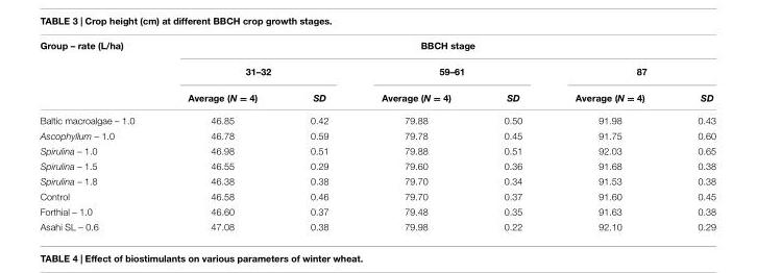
<table><thead><tr><td rowspan="3">Group – rate (L/ha)</td><td colspan="6">BBCH stage</td></tr><tr><td colspan="2">31–32</td><td colspan="2">59–61</td><td colspan="2">87</td></tr><tr><td>Average (N = 4)</td><td>SD</td><td>Average (N = 4)</td><td>SD</td><td>Average (N = 4)</td><td>SD</td></tr></thead><tbody><tr><td>Baltic macroalgae – 1.0</td><td>46.85</td><td>0.42</td><td>79.88</td><td>0.50</td><td>91.98</td><td>0.43</td></tr><tr><td>Ascophyllum – 1.0</td><td>46.78</td><td>0.59</td><td>79.78</td><td>0.45</td><td>91.75</td><td>0.60</td></tr><tr><td>Spirulina – 1.0</td><td>46.98</td><td>0.51</td><td>79.88</td><td>0.51</td><td>92.03</td><td>0.65</td></tr><tr><td>Spirulina – 1.5</td><td>46.55</td><td>0.29</td><td>79.60</td><td>0.36</td><td>91.68</td><td>0.38</td></tr><tr><td>Spirulina – 1.8</td><td>46.38</td><td>0.38</td><td>79.70</td><td>0.34</td><td>91.53</td><td>0.38</td></tr><tr><td>Control</td><td>46.58</td><td>0.46</td><td>79.70</td><td>0.37</td><td>91.60</td><td>0.45</td></tr><tr><td>Forthial – 1.0</td><td>46.60</td><td>0.37</td><td>79.48</td><td>0.35</td><td>91.63</td><td>0.38</td></tr><tr><td>Asahi SL – 0.6</td><td>47.08</td><td>0.38</td><td>79.98</td><td>0.22</td><td>92.10</td><td>0.29</td></tr></tbody></table>